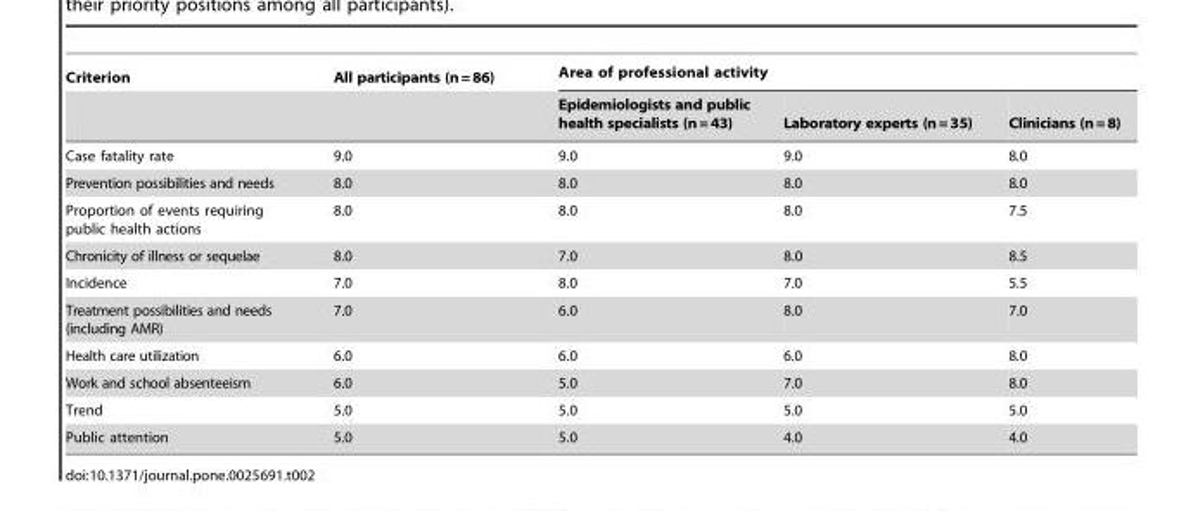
<table><thead><tr><td rowspan="2">Criterion</td><td rowspan="2">All participants (n=86)</td><td colspan="3">Area of professional activity</td></tr><tr><td>Epidemiologists and public health specialists (n=43)</td><td>Laboratory experts (n=35)</td><td>Clinicians (n=8)</td></tr></thead><tbody><tr><td>Case fatality rate</td><td>9.0</td><td>9.0</td><td>9.0</td><td>8.0</td></tr><tr><td>Prevention possibilities and needs</td><td>8.0</td><td>8.0</td><td>8.0</td><td>8.0</td></tr><tr><td>Proportion of events requiring public health actions</td><td>8.0</td><td>8.0</td><td>8.0</td><td>7.5</td></tr><tr><td>Chronicity of illness or sequelae</td><td>8.0</td><td>7.0</td><td>8.0</td><td>8.5</td></tr><tr><td>Incidence</td><td>7.0</td><td>8.0</td><td>7.0</td><td>5.5</td></tr><tr><td>Treatment possibilities and needs (including AMR)</td><td>7.0</td><td>6.0</td><td>8.0</td><td>7.0</td></tr><tr><td>Health care utilization</td><td>6.0</td><td>6.0</td><td>6.0</td><td>8.0</td></tr><tr><td>Work and school absenteeism</td><td>6.0</td><td>5.0</td><td>7.0</td><td>8.0</td></tr><tr><td>Trend</td><td>5.0</td><td>5.0</td><td>5.0</td><td>5.0</td></tr><tr><td>Public attention</td><td>5.0</td><td>5.0</td><td>4.0</td><td>4.0</td></tr></tbody></table>